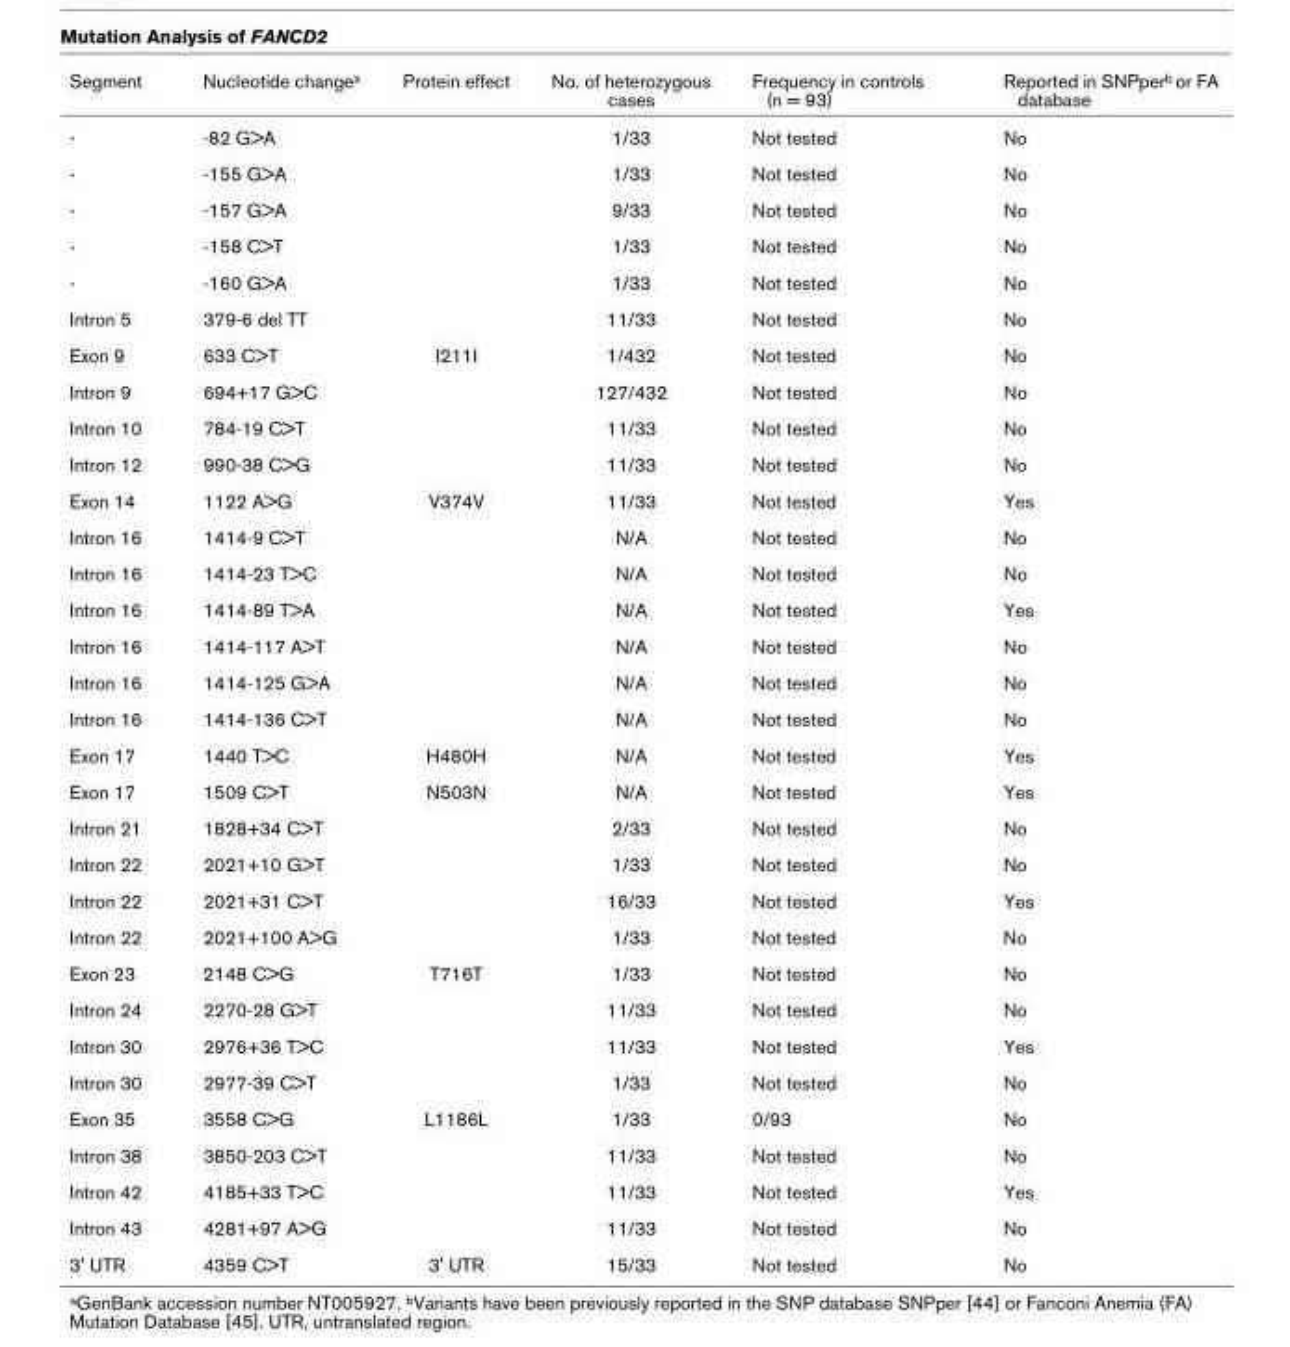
<table><thead><tr><td>Segment</td><td>Nucleotide changea</td><td>Protein effect</td><td>No. of heterozygous cases</td><td>Frequency in controls (n = 93)</td><td>Reported in SNPperb or FA database</td></tr></thead><tbody><tr><td>-</td><td>-82 G&gt;A</td><td></td><td>1/33</td><td>Not tested</td><td>No</td></tr><tr><td>-</td><td>-155 G&gt;A</td><td></td><td>1/33</td><td>Not tested</td><td>No</td></tr><tr><td>-</td><td>-157 G&gt;A</td><td></td><td>9/33</td><td>Not tested</td><td>No</td></tr><tr><td>-</td><td>-158 C&gt;T</td><td></td><td>1/33</td><td>Not tested</td><td>No</td></tr><tr><td>-</td><td>-160 G&gt;A</td><td></td><td>1/33</td><td>Not tested</td><td>No</td></tr><tr><td>Intron 5</td><td>379-6 del TT</td><td></td><td>11/33</td><td>Not tested</td><td>No</td></tr><tr><td>Exon 9</td><td>633 C&gt;T</td><td>I211I</td><td>1/432</td><td>Not tested</td><td>No</td></tr><tr><td>Intron 9</td><td>694+17 G&gt;C</td><td></td><td>127/432</td><td>Not tested</td><td>No</td></tr><tr><td>Intron 10</td><td>784-19 C&gt;T</td><td></td><td>11/33</td><td>Not tested</td><td>No</td></tr><tr><td>Intron 12</td><td>990-38 C&gt;G</td><td></td><td>11/33</td><td>Not tested</td><td>No</td></tr><tr><td>Exon 14</td><td>1122 A&gt;G</td><td>V374V</td><td>11/33</td><td>Not tested</td><td>Yes</td></tr><tr><td>Intron 16</td><td>1414-9 C&gt;T</td><td></td><td>N/A</td><td>Not tested</td><td>No</td></tr><tr><td>Intron 16</td><td>1414-23 T&gt;C</td><td></td><td>N/A</td><td>Not tested</td><td>No</td></tr><tr><td>Intron 16</td><td>1414-89 T&gt;A</td><td></td><td>N/A</td><td>Not tested</td><td>Yes</td></tr><tr><td>Intron 16</td><td>1414-117 A&gt;T</td><td></td><td>N/A</td><td>Not tested</td><td>No</td></tr><tr><td>Intron 16</td><td>1414-125 G&gt;A</td><td></td><td>N/A</td><td>Not tested</td><td>No</td></tr><tr><td>Intron 16</td><td>1414-136 C&gt;T</td><td></td><td>N/A</td><td>Not tested</td><td>No</td></tr><tr><td>Exon 17</td><td>1440 T&gt;C</td><td>H480H</td><td>N/A</td><td>Not tested</td><td>Yes</td></tr><tr><td>Exon 17</td><td>1509 C&gt;T</td><td>N503N</td><td>N/A</td><td>Not tested</td><td>Yes</td></tr><tr><td>Intron 21</td><td>1828+34 C&gt;T</td><td></td><td>2/33</td><td>Not tested</td><td>No</td></tr><tr><td>Intron 22</td><td>2021+10 G&gt;T</td><td></td><td>1/33</td><td>Not tested</td><td>No</td></tr><tr><td>Intron 22</td><td>2021+31 C&gt;T</td><td></td><td>16/33</td><td>Not tested</td><td>Yes</td></tr><tr><td>Intron 22</td><td>2021+100 A&gt;G</td><td></td><td>1/33</td><td>Not tested</td><td>No</td></tr><tr><td>Exon 23</td><td>2148 C&gt;G</td><td>T716T</td><td>1/33</td><td>Not tested</td><td>No</td></tr><tr><td>Intron 24</td><td>2270-28 G&gt;T</td><td></td><td>11/33</td><td>Not tested</td><td>No</td></tr><tr><td>Intron 30</td><td>2976+36 T&gt;C</td><td></td><td>11/33</td><td>Not tested</td><td>Yes</td></tr><tr><td>Intron 30</td><td>2977-39 C&gt;T</td><td></td><td>1/33</td><td>Not tested</td><td>No</td></tr><tr><td>Exon 35</td><td>3558 C&gt;G</td><td>L1186L</td><td>1/33</td><td>0/93</td><td>No</td></tr><tr><td>Intron 38</td><td>3850-203 C&gt;T</td><td></td><td>11/33</td><td>Not tested</td><td>No</td></tr><tr><td>Intron 42</td><td>4185+33 T&gt;C</td><td></td><td>11/33</td><td>Not tested</td><td>Yes</td></tr><tr><td>Intron 43</td><td>4281+97 A&gt;G</td><td></td><td>11/33</td><td>Not tested</td><td>No</td></tr><tr><td>3&#x27; UTR</td><td>4359 C&gt;T</td><td>3&#x27; UTR</td><td>15/33</td><td>Not tested</td><td>No</td></tr></tbody></table>